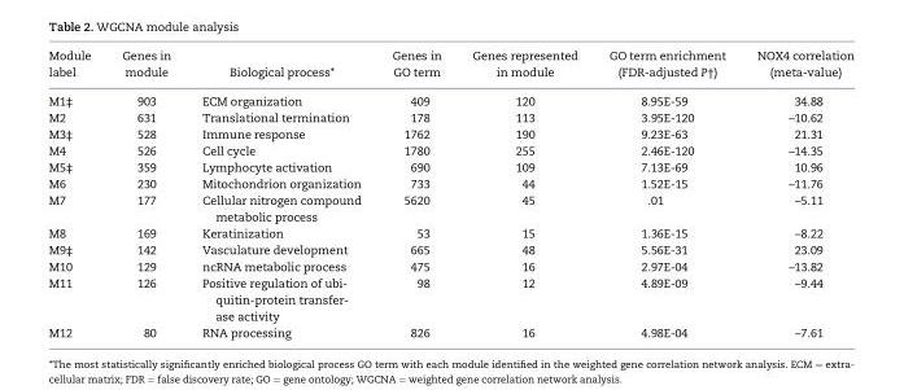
<table><thead><tr><td>Module label</td><td>Genes in module</td><td>Biological process*</td><td>Genes in GO term</td><td>Genes represented in module</td><td>GO term enrichment (FDR-adjusted P†)</td><td>NOX4 correlation (meta-value)</td></tr></thead><tbody><tr><td>M1‡</td><td>903</td><td>ECM organization</td><td>409</td><td>120</td><td>8.95E-59</td><td>34.88</td></tr><tr><td>M2</td><td>631</td><td>Translational termination</td><td>178</td><td>113</td><td>3.95E-120</td><td>–10.62</td></tr><tr><td>M3‡</td><td>528</td><td>Immune response</td><td>1762</td><td>190</td><td>9.23E-63</td><td>21.31</td></tr><tr><td>M4</td><td>526</td><td>Cell cycle</td><td>1780</td><td>255</td><td>2.46E-120</td><td>–14.35</td></tr><tr><td>M5‡</td><td>359</td><td>Lymphocyte activation</td><td>690</td><td>109</td><td>7.13E-69</td><td>10.96</td></tr><tr><td>M6</td><td>230</td><td>Mitochondrion organization</td><td>733</td><td>44</td><td>1.52E-15</td><td>–11.76</td></tr><tr><td>M7</td><td>177</td><td>Cellular nitrogen compound metabolic process</td><td>5620</td><td>45</td><td>.01</td><td>–5.11</td></tr><tr><td>M8</td><td>169</td><td>Keratinization</td><td>53</td><td>15</td><td>1.36E-15</td><td>–8.22</td></tr><tr><td>M9‡</td><td>142</td><td>Vasculature development</td><td>665</td><td>48</td><td>5.56E-31</td><td>23.09</td></tr><tr><td>M10</td><td>129</td><td>ncRNA metabolic process</td><td>475</td><td>16</td><td>2.97E-04</td><td>–13.82</td></tr><tr><td>M11</td><td>126</td><td>Positive regulation of ubi- quitin-protein transfer- ase activity</td><td>98</td><td>12</td><td>4.89E-09</td><td>–9.44</td></tr><tr><td>M12</td><td>80</td><td>RNA processing</td><td>826</td><td>16</td><td>4.98E-04</td><td>–7.61</td></tr></tbody></table>